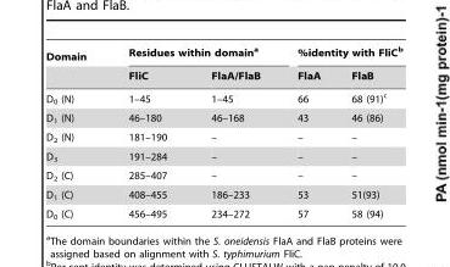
<table><thead><tr><td rowspan="2">Domain</td><td colspan="2">Residues within domain<sup>a</sup></td><td colspan="2">%identity with FliC<sup>b</sup></td></tr><tr><td>FliC</td><td>FlaA/FlaB</td><td>FlaA</td><td>FlaB</td></tr></thead><tbody><tr><td>D<sub>0</sub> (N)</td><td>1–45</td><td>1–45</td><td>66</td><td>68 (91)<sup>c</sup></td></tr><tr><td>D<sub>1</sub> (N)</td><td>46–180</td><td>46–168</td><td>43</td><td>46 (86)</td></tr><tr><td>D<sub>2</sub> (N)</td><td>181–190</td><td>–</td><td>–</td><td>–</td></tr><tr><td>D<sub>3</sub></td><td>191–284</td><td>–</td><td>–</td><td>–</td></tr><tr><td>D<sub>2</sub> (C)</td><td>285–407</td><td>–</td><td>–</td><td>–</td></tr><tr><td>D<sub>1</sub> (C)</td><td>408–455</td><td>186–233</td><td>53</td><td>51(93)</td></tr><tr><td>D<sub>0</sub> (C)</td><td>456–495</td><td>234–272</td><td>57</td><td>58 (94)</td></tr></tbody></table>